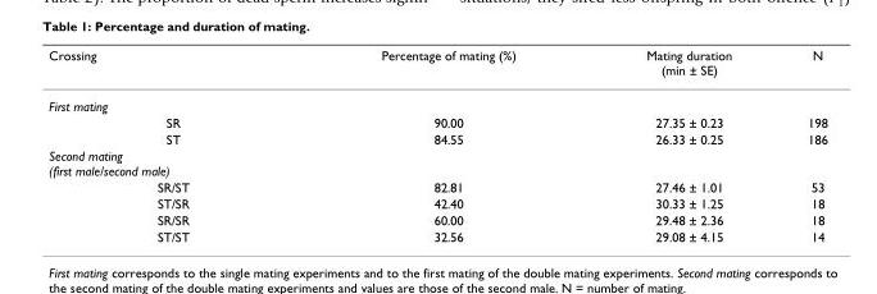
<table><thead><tr><td>Crossing</td><td>Percentage of mating (%)</td><td>Mating duration (min ± SE)</td><td>N</td></tr></thead><tbody><tr><td colspan="4">First mating</td></tr><tr><td>SR</td><td>90.00</td><td>27.35 ± 0.23</td><td>198</td></tr><tr><td>ST</td><td>84.55</td><td>26.33 ± 0.25</td><td>186</td></tr><tr><td colspan="4">Second mating (first male/second male)</td></tr><tr><td>SR/ST</td><td>82.81</td><td>27.46 ± 1.01</td><td>53</td></tr><tr><td>ST/SR</td><td>42.40</td><td>30.33 ± 1.25</td><td>18</td></tr><tr><td>SR/SR</td><td>60.00</td><td>29.48 ± 2.36</td><td>18</td></tr><tr><td>ST/ST</td><td>32.56</td><td>29.08 ± 4.15</td><td>14</td></tr></tbody></table>